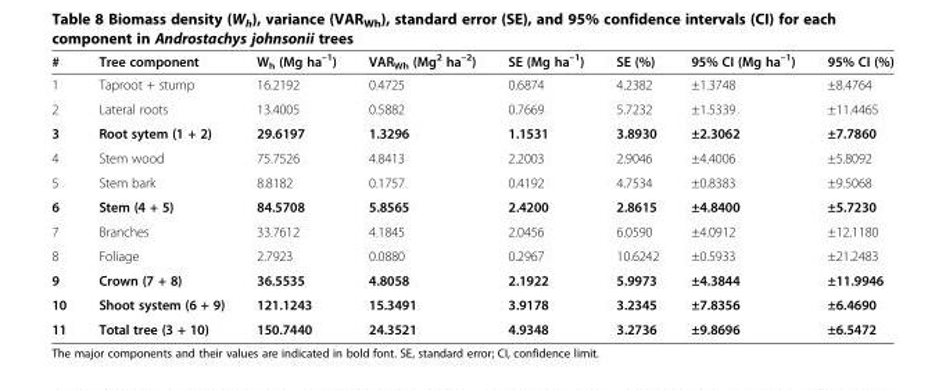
<table><thead><tr><td>#</td><td>Tree component</td><td>W<sub>h</sub> (Mg ha<sup>–1</sup>)</td><td>VAR<sub>Wh</sub> (Mg<sup>2</sup> ha<sup>–2</sup>)</td><td>SE (Mg ha<sup>–1</sup>)</td><td>SE (%)</td><td>95% CI (Mg ha<sup>–1</sup>)</td><td>95% CI (%)</td></tr></thead><tbody><tr><td>1</td><td>Taproot + stump</td><td>16.2192</td><td>0.4725</td><td>0.6874</td><td>4.2382</td><td>±1.3748</td><td>±8.4764</td></tr><tr><td>2</td><td>Lateral roots</td><td>13.4005</td><td>0.5882</td><td>0.7669</td><td>5.7232</td><td>±1.5339</td><td>±11.4465</td></tr><tr><td>3</td><td>Root sytem (1 + 2)</td><td>29.6197</td><td>1.3296</td><td>1.1531</td><td>3.8930</td><td>±2.3062</td><td>±7.7860</td></tr><tr><td>4</td><td>Stem wood</td><td>75.7526</td><td>4.8413</td><td>2.2003</td><td>2.9046</td><td>±4.4006</td><td>±5.8092</td></tr><tr><td>5</td><td>Stem bark</td><td>8.8182</td><td>0.1757</td><td>0.4192</td><td>4.7534</td><td>±0.8383</td><td>±9.5068</td></tr><tr><td>6</td><td>Stem (4 + 5)</td><td>84.5708</td><td>5.8565</td><td>2.4200</td><td>2.8615</td><td>±4.8400</td><td>±5.7230</td></tr><tr><td>7</td><td>Branches</td><td>33.7612</td><td>4.1845</td><td>2.0456</td><td>6.0590</td><td>±4.0912</td><td>±12.1180</td></tr><tr><td>8</td><td>Foliage</td><td>2.7923</td><td>0.0880</td><td>0.2967</td><td>10.6242</td><td>±0.5933</td><td>±21.2483</td></tr><tr><td>9</td><td>Crown (7 + 8)</td><td>36.5535</td><td>4.8058</td><td>2.1922</td><td>5.9973</td><td>±4.3844</td><td>±11.9946</td></tr><tr><td>10</td><td>Shoot system (6 + 9)</td><td>121.1243</td><td>15.3491</td><td>3.9178</td><td>3.2345</td><td>±7.8356</td><td>±6.4690</td></tr><tr><td>11</td><td>Total tree (3 + 10)</td><td>150.7440</td><td>24.3521</td><td>4.9348</td><td>3.2736</td><td>±9.8696</td><td>±6.5472</td></tr></tbody></table>